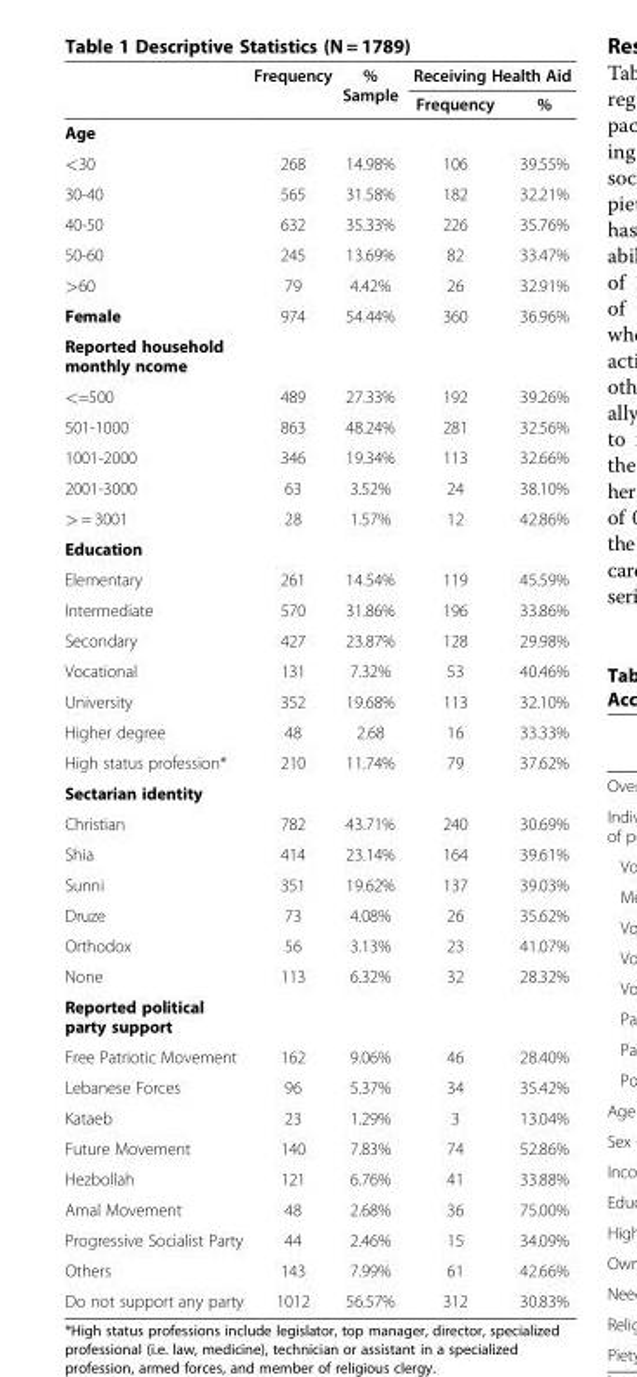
<table><thead><tr><td rowspan="2"></td><td rowspan="2">Frequency</td><td rowspan="2">% Sample</td><td colspan="2">Receiving Health Aid</td></tr><tr><td>Frequency</td><td>%</td></tr></thead><tbody><tr><td colspan="5">Age</td></tr><tr><td>&lt;30</td><td>268</td><td>14.98%</td><td>106</td><td>39.55%</td></tr><tr><td>30-40</td><td>565</td><td>31.58%</td><td>182</td><td>32.21%</td></tr><tr><td>40-50</td><td>632</td><td>35.33%</td><td>226</td><td>35.76%</td></tr><tr><td>50-60</td><td>245</td><td>13.69%</td><td>82</td><td>33.47%</td></tr><tr><td>&gt;60</td><td>79</td><td>4.42%</td><td>26</td><td>32.91%</td></tr><tr><td>Female</td><td>974</td><td>54.44%</td><td>360</td><td>36.96%</td></tr><tr><td colspan="5">Reported household monthly ncome</td></tr><tr><td>&lt;=500</td><td>489</td><td>27.33%</td><td>192</td><td>39.26%</td></tr><tr><td>501-1000</td><td>863</td><td>48.24%</td><td>281</td><td>32.56%</td></tr><tr><td>1001-2000</td><td>346</td><td>19.34%</td><td>113</td><td>32.66%</td></tr><tr><td>2001-3000</td><td>63</td><td>3.52%</td><td>24</td><td>38.10%</td></tr><tr><td>&gt; = 3001</td><td>28</td><td>1.57%</td><td>12</td><td>42.86%</td></tr><tr><td colspan="5">Education</td></tr><tr><td>Elementary</td><td>261</td><td>14.54%</td><td>119</td><td>45.59%</td></tr><tr><td>Intermediate</td><td>570</td><td>31.86%</td><td>196</td><td>33.86%</td></tr><tr><td>Secondary</td><td>427</td><td>23.87%</td><td>128</td><td>29.98%</td></tr><tr><td>Vocational</td><td>131</td><td>7.32%</td><td>53</td><td>40.46%</td></tr><tr><td>University</td><td>352</td><td>19.68%</td><td>113</td><td>32.10%</td></tr><tr><td>Higher degree</td><td>48</td><td>2.68</td><td>16</td><td>33.33%</td></tr><tr><td>High status profession*</td><td>210</td><td>11.74%</td><td>79</td><td>37.62%</td></tr><tr><td colspan="5">Sectarian identity</td></tr><tr><td>Christian</td><td>782</td><td>43.71%</td><td>240</td><td>30.69%</td></tr><tr><td>Shia</td><td>414</td><td>23.14%</td><td>164</td><td>39.61%</td></tr><tr><td>Sunni</td><td>351</td><td>19.62%</td><td>137</td><td>39.03%</td></tr><tr><td>Druze</td><td>73</td><td>4.08%</td><td>26</td><td>35.62%</td></tr><tr><td>Orthodox</td><td>56</td><td>3.13%</td><td>23</td><td>41.07%</td></tr><tr><td>None</td><td>113</td><td>6.32%</td><td>32</td><td>28.32%</td></tr><tr><td colspan="5">Reported political party support</td></tr><tr><td>Free Patriotic Movement</td><td>162</td><td>9.06%</td><td>46</td><td>28.40%</td></tr><tr><td>Lebanese Forces</td><td>96</td><td>5.37%</td><td>34</td><td>35.42%</td></tr><tr><td>Kataeb</td><td>23</td><td>1.29%</td><td>3</td><td>13.04%</td></tr><tr><td>Future Movement</td><td>140</td><td>7.83%</td><td>74</td><td>52.86%</td></tr><tr><td>Hezbollah</td><td>121</td><td>6.76%</td><td>41</td><td>33.88%</td></tr><tr><td>Amal Movement</td><td>48</td><td>2.68%</td><td>36</td><td>75.00%</td></tr><tr><td>Progressive Socialist Party</td><td>44</td><td>2.46%</td><td>15</td><td>34.09%</td></tr><tr><td>Others</td><td>143</td><td>7.99%</td><td>61</td><td>42.66%</td></tr><tr><td>Do not support any party</td><td>1012</td><td>56.57%</td><td>312</td><td>30.83%</td></tr></tbody></table>